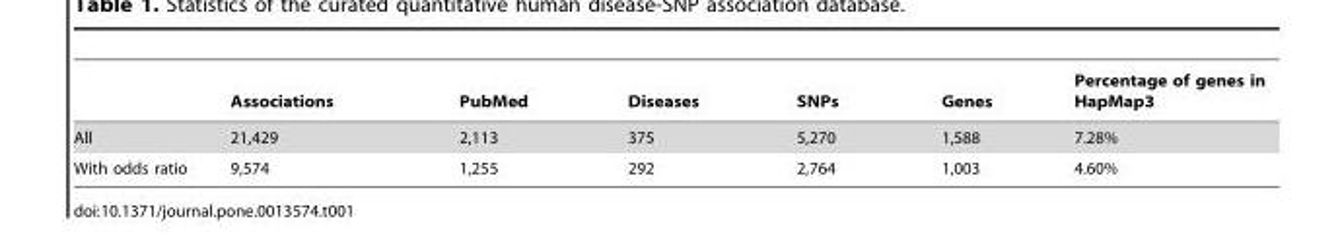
<table><thead><tr><td></td><td>Associations</td><td>PubMed</td><td>Diseases</td><td>SNPs</td><td>Genes</td><td>Percentage of genes in HapMap3</td></tr></thead><tbody><tr><td>All</td><td>21,429</td><td>2,113</td><td>375</td><td>5,270</td><td>1,588</td><td>7.28%</td></tr><tr><td>With odds ratio</td><td>9,574</td><td>1,255</td><td>292</td><td>2,764</td><td>1,003</td><td>4.60%</td></tr></tbody></table>